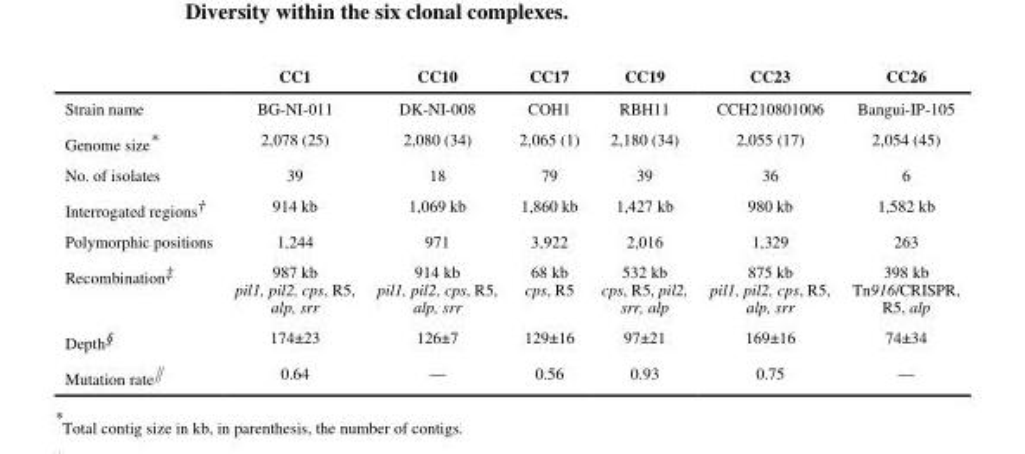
<table><thead><tr><td></td><td>CC1</td><td>CC10</td><td>CC17</td><td>CC19</td><td>CC23</td><td>CC26</td></tr></thead><tbody><tr><td>Strain name</td><td>BG-NI-011</td><td>DK-NI-008</td><td>COH1</td><td>RBH11</td><td>CCH210801006</td><td>Bangui-IP-105</td></tr><tr><td>Genome size*</td><td>2,078 (25)</td><td>2,080 (34)</td><td>2,065 (1)</td><td>2,180 (34)</td><td>2,055 (17)</td><td>2,054 (45)</td></tr><tr><td>No. of isolates</td><td>39</td><td>18</td><td>79</td><td>39</td><td>36</td><td>6</td></tr><tr><td>Interrogated regions†</td><td>914 kb</td><td>1,069 kb</td><td>1,860 kb</td><td>1,427 kb</td><td>980 kb</td><td>1,582 kb</td></tr><tr><td>Polymorphic positions</td><td>1,244</td><td>971</td><td>3,922</td><td>2,016</td><td>1,329</td><td>263</td></tr><tr><td>Recombination‡</td><td>987 kb pil1, pil2, cps, R5, alp, srr</td><td>914 kb pil1, pil2, cps, R5, alp, srr</td><td>68 kb cps, R5</td><td>532 kb cps, R5, pil2, srr, alp</td><td>875 kb pil1, pil2, cps, R5, alp, srr</td><td>398 kb Tn916/CRISPR, R5, alp</td></tr><tr><td>Depth§</td><td>174±23</td><td>126±7</td><td>129±16</td><td>97±21</td><td>169±16</td><td>74±34</td></tr><tr><td>Mutation rate∥</td><td>0.64</td><td>—</td><td>0.56</td><td>0.93</td><td>0.75</td><td>—</td></tr></tbody></table>